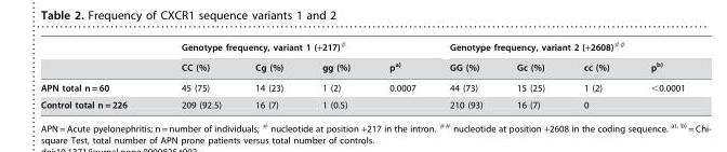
<table><thead><tr><td rowspan="2"></td><td colspan="4">Genotype frequency, variant 1 (+217)<sup>#</sup></td><td colspan="4">Genotype frequency, variant 2 (+2608)<sup>##</sup></td></tr><tr><td>CC (%)</td><td>Cg (%)</td><td>gg (%)</td><td>p<sup>a)</sup></td><td>GG (%)</td><td>Gc (%)</td><td>cc (%)</td><td>p<sup>b)</sup></td></tr></thead><tbody><tr><td>APN total n = 60</td><td>45 (75)</td><td>14 (23)</td><td>1 (2)</td><td>0.0007</td><td>44 (73)</td><td>15 (25)</td><td>1 (2)</td><td>&lt;0.0001</td></tr><tr><td>Control total n = 226</td><td>209 (92.5)</td><td>16 (7)</td><td>1 (0.5)</td><td></td><td>210 (93)</td><td>16 (7)</td><td>0</td><td></td></tr></tbody></table>